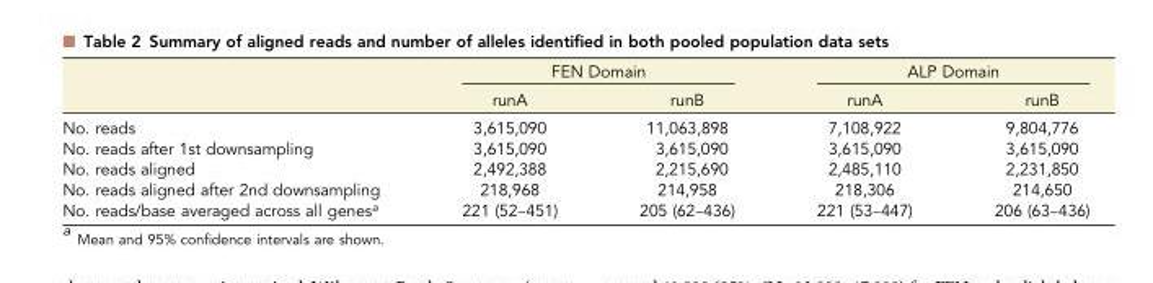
<table><thead><tr><td rowspan="2"></td><td colspan="2">FEN Domain</td><td colspan="2">ALP Domain</td></tr><tr><td>runA</td><td>runB</td><td>runA</td><td>runB</td></tr></thead><tbody><tr><td>No. reads</td><td>3,615,090</td><td>11,063,898</td><td>7,108,922</td><td>9,804,776</td></tr><tr><td>No. reads after 1st downsampling</td><td>3,615,090</td><td>3,615,090</td><td>3,615,090</td><td>3,615,090</td></tr><tr><td>No. reads aligned</td><td>2,492,388</td><td>2,215,690</td><td>2,485,110</td><td>2,231,850</td></tr><tr><td>No. reads aligned after 2nd downsampling</td><td>218,968</td><td>214,958</td><td>218,306</td><td>214,650</td></tr><tr><td>No. reads/base averaged across all genes<sup>a</sup></td><td>221 (52–451)</td><td>205 (62–436)</td><td>221 (53–447)</td><td>206 (63–436)</td></tr></tbody></table>